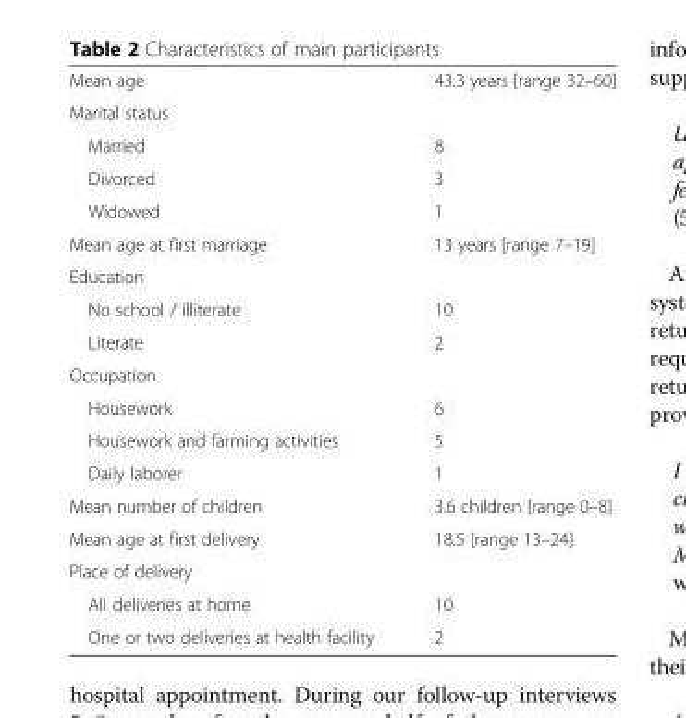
<table><tbody><tr><td>Mean age</td><td>43.3 years [range 32–60]</td></tr><tr><td colspan="2">Marital status</td></tr><tr><td>Married</td><td>8</td></tr><tr><td>Divorced</td><td>3</td></tr><tr><td>Widowed</td><td>1</td></tr><tr><td>Mean age at first marriage</td><td>13 years [range 7–19]</td></tr><tr><td colspan="2">Education</td></tr><tr><td>No school / illiterate</td><td>10</td></tr><tr><td>Literate</td><td>2</td></tr><tr><td colspan="2">Occupation</td></tr><tr><td>Housework</td><td>6</td></tr><tr><td>Housework and farming activities</td><td>5</td></tr><tr><td>Daily laborer</td><td>1</td></tr><tr><td>Mean number of children</td><td>3.6 children [range 0–8]</td></tr><tr><td>Mean age at first delivery</td><td>18.5 [range 13–24]</td></tr><tr><td colspan="2">Place of delivery</td></tr><tr><td>All deliveries at home</td><td>10</td></tr><tr><td>One or two deliveries at health facility</td><td>2</td></tr></tbody></table>